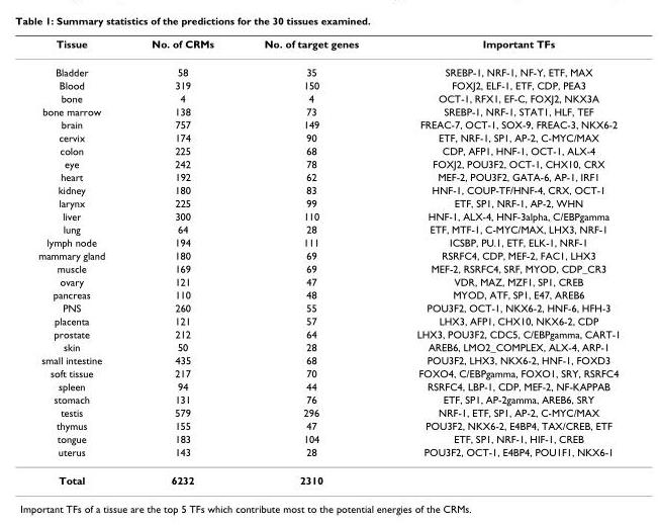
<table><thead><tr><td>Tissue</td><td>No. of CRMs</td><td>No. of target genes</td><td>Important TFs</td></tr></thead><tbody><tr><td>Bladder</td><td>58</td><td>35</td><td>SREBP-1, NRF-1, NF-Y, ETF, MAX</td></tr><tr><td>Blood</td><td>319</td><td>150</td><td>FOXJ2, ELF-1, ETF, CDP, PEA3</td></tr><tr><td>bone</td><td>4</td><td>4</td><td>OCT-1, RFX1, EF-C, FOXJ2, NKX3A</td></tr><tr><td>bone marrow</td><td>138</td><td>73</td><td>SREBP-1, NRF-1, STAT1, HLF, TEF</td></tr><tr><td>brain</td><td>757</td><td>149</td><td>FREAC-7, OCT-1, SOX-9, FREAC-3, NKX6-2</td></tr><tr><td>cervix</td><td>174</td><td>90</td><td>ETF, NRF-1, SP1, AP-2, C-MYC/MAX</td></tr><tr><td>colon</td><td>225</td><td>68</td><td>CDP, AFP1, HNF-1, OCT-1, ALX-4</td></tr><tr><td>eye</td><td>242</td><td>78</td><td>FOXJ2, POU3F2, OCT-1, CHX10, CRX</td></tr><tr><td>heart</td><td>192</td><td>62</td><td>MEF-2, POU3F2, GATA-6, AP-1, IRF1</td></tr><tr><td>kidney</td><td>180</td><td>83</td><td>HNF-1, COUP-TF/HNF-4, CRX, OCT-1</td></tr><tr><td>larynx</td><td>225</td><td>99</td><td>ETF, SP1, NRF-1, AP-2, WHN</td></tr><tr><td>liver</td><td>300</td><td>110</td><td>HNF-1, ALX-4, HNF-3alpha, C/EBPgamma</td></tr><tr><td>lung</td><td>64</td><td>28</td><td>ETF, MTF-1, C-MYC/MAX, LHX3, NRF-1</td></tr><tr><td>lymph node</td><td>194</td><td>111</td><td>ICSBP, PU.1, ETF, ELK-1, NRF-1</td></tr><tr><td>mammary gland</td><td>180</td><td>69</td><td>RSRFC4, CDP, MEF-2, FAC1, LHX3</td></tr><tr><td>muscle</td><td>169</td><td>69</td><td>MEF-2, RSRFC4, SRF, MYOD, CDP_CR3</td></tr><tr><td>ovary</td><td>121</td><td>47</td><td>VDR, MAZ, MZF1, SP1, CREB</td></tr><tr><td>pancreas</td><td>110</td><td>48</td><td>MYOD, ATF, SP1, E47, AREB6</td></tr><tr><td>PNS</td><td>260</td><td>55</td><td>POU3F2, OCT-1, NKX6-2, HNF-6, HFH-3</td></tr><tr><td>placenta</td><td>121</td><td>57</td><td>LHX3, AFP1, CHX10, NKX6-2, CDP</td></tr><tr><td>prostate</td><td>212</td><td>64</td><td>LHX3, POU3F2, CDC5, C/EBPgamma, CART-1</td></tr><tr><td>skin</td><td>50</td><td>28</td><td>AREB6, LMO2_COMPLEX, ALX-4, ARP-1</td></tr><tr><td>small intestine</td><td>435</td><td>68</td><td>POU3F2, LHX3, NKX6-2, HNF-1, FOXD3</td></tr><tr><td>soft tissue</td><td>217</td><td>70</td><td>FOXO4, C/EBPgamma, FOXO1, SRY, RSRFC4</td></tr><tr><td>spleen</td><td>94</td><td>44</td><td>RSRFC4, LBP-1, CDP, MEF-2, NF-KAPPAB</td></tr><tr><td>stomach</td><td>131</td><td>76</td><td>ETF, SP1, AP-2gamma, AREB6, SRY</td></tr><tr><td>testis</td><td>579</td><td>296</td><td>NRF-1, ETF, SP1, AP-2, C-MYC/MAX</td></tr><tr><td>thymus</td><td>155</td><td>47</td><td>POU3F2, NKX6-2, E4BP4, TAX/CREB, ETF</td></tr><tr><td>tongue</td><td>183</td><td>104</td><td>ETF, SP1, NRF-1, HIF-1, CREB</td></tr><tr><td>uterus</td><td>143</td><td>28</td><td>POU3F2, OCT-1, E4BP4, POU1F1, NKX6-1</td></tr><tr><td>Total</td><td>6232</td><td>2310</td><td></td></tr></tbody></table>